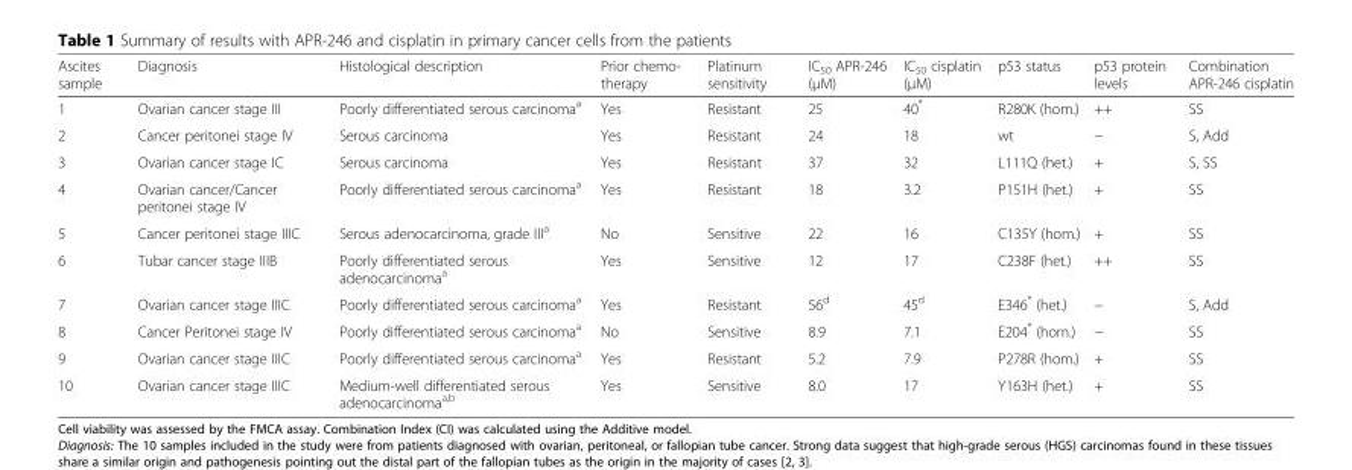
<table><thead><tr><td>Ascites sample</td><td>Diagnosis</td><td>Histological description</td><td>Prior chemo- therapy</td><td>Platinum sensitivity</td><td>IC<sub>50</sub> APR-246 (μM)</td><td>IC<sub>50</sub> cisplatin (μM)</td><td>p53 status</td><td>p53 protein levels</td><td>Combination APR-246 cisplatin</td></tr></thead><tbody><tr><td>1</td><td>Ovarian cancer stage III</td><td>Poorly differentiated serous carcinoma<sup>a</sup></td><td>Yes</td><td>Resistant</td><td>25</td><td>40*</td><td>R280K (hom.)</td><td>++</td><td>SS</td></tr><tr><td>2</td><td>Cancer peritonei stage IV</td><td>Serous carcinoma</td><td>Yes</td><td>Resistant</td><td>24</td><td>18</td><td>wt</td><td>−</td><td>S, Add</td></tr><tr><td>3</td><td>Ovarian cancer stage IC</td><td>Serous carcinoma</td><td>Yes</td><td>Resistant</td><td>37</td><td>32</td><td>L111Q (het.)</td><td>+</td><td>S, SS</td></tr><tr><td>4</td><td>Ovarian cancer/Cancer peritonei stage IV</td><td>Poorly differentiated serous carcinoma<sup>a</sup></td><td>Yes</td><td>Resistant</td><td>18</td><td>3.2</td><td>P151H (het.)</td><td>+</td><td>SS</td></tr><tr><td>5</td><td>Cancer peritonei stage IIIC</td><td>Serous adenocarcinoma, grade III<sup>a</sup></td><td>No</td><td>Sensitive</td><td>22</td><td>16</td><td>C135Y (hom.)</td><td>+</td><td>SS</td></tr><tr><td>6</td><td>Tubar cancer stage IIIB</td><td>Poorly differentiated serous adenocarcinoma<sup>a</sup></td><td>Yes</td><td>Sensitive</td><td>12</td><td>17</td><td>C238F (het.)</td><td>++</td><td>SS</td></tr><tr><td>7</td><td>Ovarian cancer stage IIIC</td><td>Poorly differentiated serous carcinoma<sup>a</sup></td><td>Yes</td><td>Resistant</td><td>56<sup>d</sup></td><td>45<sup>d</sup></td><td>E346* (het.)</td><td>−</td><td>S, Add</td></tr><tr><td>8</td><td>Cancer Peritonei stage IV</td><td>Poorly differentiated serous carcinoma<sup>a</sup></td><td>No</td><td>Sensitive</td><td>8.9</td><td>7.1</td><td>E204* (hom.)</td><td>−</td><td>SS</td></tr><tr><td>9</td><td>Ovarian cancer stage IIIC</td><td>Poorly differentiated serous carcinoma<sup>a</sup></td><td>Yes</td><td>Resistant</td><td>5.2</td><td>7.9</td><td>P278R (hom.)</td><td>+</td><td>SS</td></tr><tr><td>10</td><td>Ovarian cancer stage IIIC</td><td>Medium-well differentiated serous adenocarcinoma<sup>a,b</sup></td><td>Yes</td><td>Sensitive</td><td>8.0</td><td>17</td><td>Y163H (het.)</td><td>+</td><td>SS</td></tr></tbody></table>